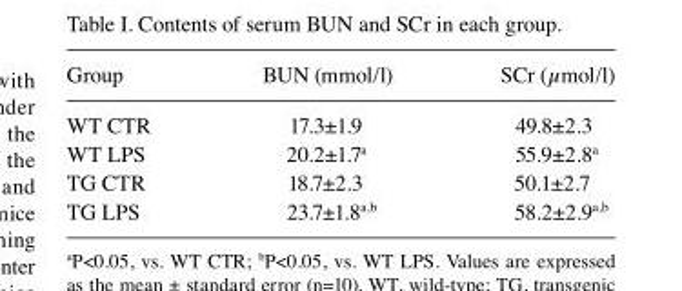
<table><thead><tr><td>Group</td><td>BUN (mmol/l)</td><td>SCr (µmol/l)</td></tr></thead><tbody><tr><td>WT CTR</td><td>17.3±1.9</td><td>49.8±2.3</td></tr><tr><td>WT LPS</td><td>20.2±1.7<sup>a</sup></td><td>55.9±2.8<sup>a</sup></td></tr><tr><td>TG CTR</td><td>18.7±2.3</td><td>50.1±2.7</td></tr><tr><td>TG LPS</td><td>23.7±1.8<sup>a</sup>,<sup>b</sup></td><td>58.2±2.9<sup>a</sup>,<sup>b</sup></td></tr></tbody></table>